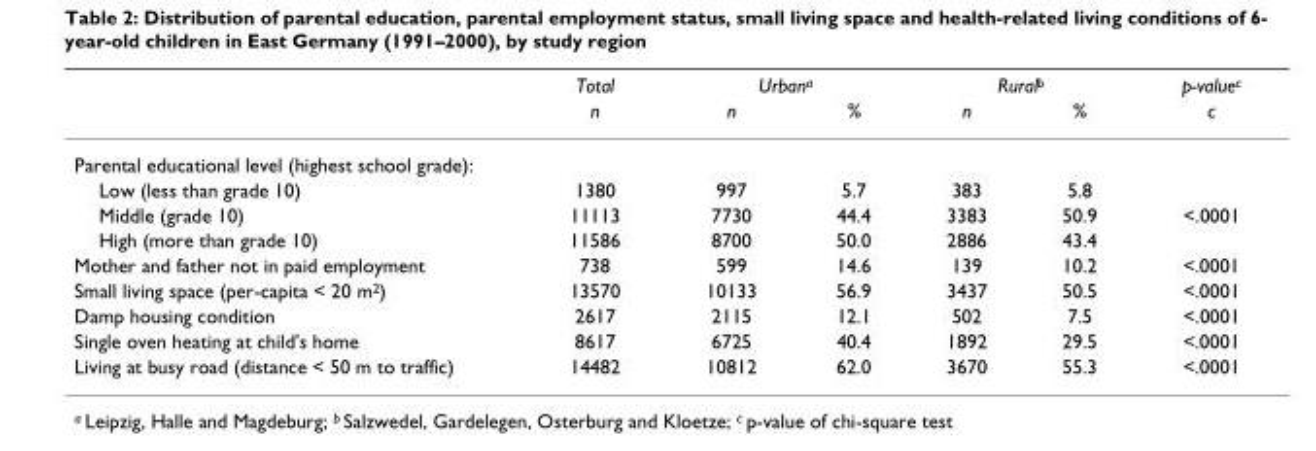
<table><thead><tr><td rowspan="2"></td><td rowspan="2">Total n</td><td colspan="2">Urban<sup>a</sup></td><td colspan="2">Rural<sup>b</sup></td><td rowspan="2">p-value<sup>c</sup> c</td></tr><tr><td>n</td><td>%</td><td>n</td><td>%</td></tr></thead><tbody><tr><td colspan="7">Parental educational level (highest school grade):</td></tr><tr><td>Low (less than grade 10)</td><td>1380</td><td>997</td><td>5.7</td><td>383</td><td>5.8</td><td></td></tr><tr><td>Middle (grade 10)</td><td>11113</td><td>7730</td><td>44.4</td><td>3383</td><td>50.9</td><td>&lt;.0001</td></tr><tr><td>High (more than grade 10)</td><td>11586</td><td>8700</td><td>50.0</td><td>2886</td><td>43.4</td><td></td></tr><tr><td>Mother and father not in paid employment</td><td>738</td><td>599</td><td>14.6</td><td>139</td><td>10.2</td><td>&lt;.0001</td></tr><tr><td>Small living space (per-capita &lt; 20 m<sup>2</sup>)</td><td>13570</td><td>10133</td><td>56.9</td><td>3437</td><td>50.5</td><td>&lt;.0001</td></tr><tr><td>Damp housing condition</td><td>2617</td><td>2115</td><td>12.1</td><td>502</td><td>7.5</td><td>&lt;.0001</td></tr><tr><td>Single oven heating at child&#x27;s home</td><td>8617</td><td>6725</td><td>40.4</td><td>1892</td><td>29.5</td><td>&lt;.0001</td></tr><tr><td>Living at busy road (distance &lt; 50 m to traffic)</td><td>14482</td><td>10812</td><td>62.0</td><td>3670</td><td>55.3</td><td>&lt;.0001</td></tr></tbody></table>